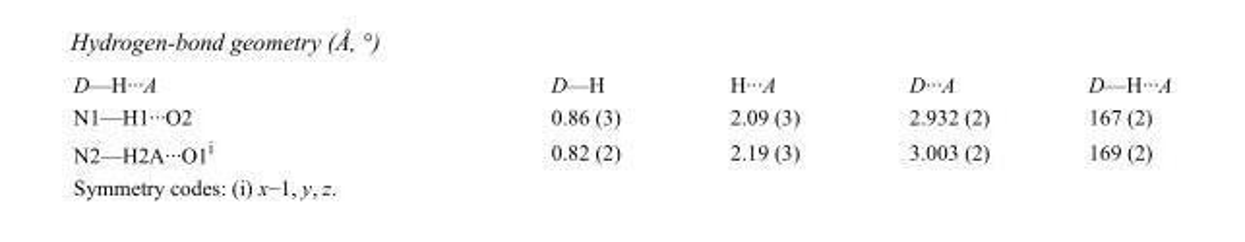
<table><tbody><tr><td>D—H···A</td><td>D—H</td><td>H···A</td><td>D···A</td><td>D—H···A</td></tr><tr><td>N1—H1···O2</td><td>0.86 (3)</td><td>2.09 (3)</td><td>2.932 (2)</td><td>167 (2)</td></tr><tr><td>N2—H2A···O1<sup>i</sup></td><td>0.82 (2)</td><td>2.19 (3)</td><td>3.003 (2)</td><td>169 (2)</td></tr></tbody></table>